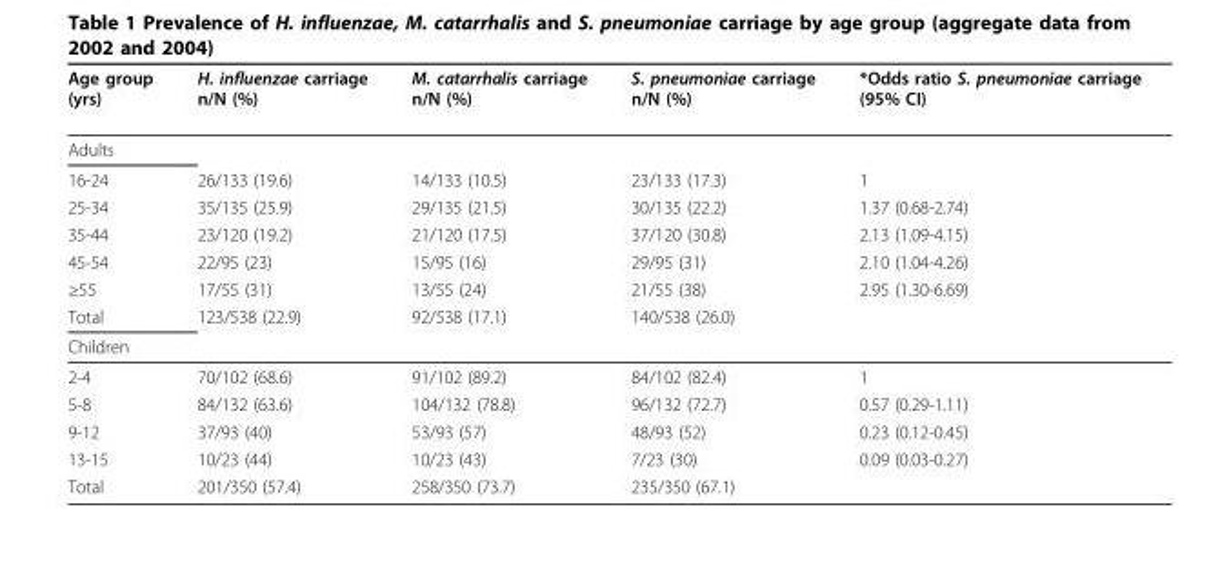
<table><thead><tr><td>Age group (yrs)</td><td>H. influenzae carriage n/N (%)</td><td>M. catarrhalis carriage n/N (%)</td><td>S. pneumoniae carriage n/N (%)</td><td>*Odds ratio S. pneumoniae carriage (95% CI)</td></tr></thead><tbody><tr><td colspan="5">Adults</td></tr><tr><td>16-24</td><td>26/133 (19.6)</td><td>14/133 (10.5)</td><td>23/133 (17.3)</td><td>1</td></tr><tr><td>25-34</td><td>35/135 (25.9)</td><td>29/135 (21.5)</td><td>30/135 (22.2)</td><td>1.37 (0.68-2.74)</td></tr><tr><td>35-44</td><td>23/120 (19.2)</td><td>21/120 (17.5)</td><td>37/120 (30.8)</td><td>2.13 (1.09-4.15)</td></tr><tr><td>45-54</td><td>22/95 (23)</td><td>15/95 (16)</td><td>29/95 (31)</td><td>2.10 (1.04-4.26)</td></tr><tr><td>≥55</td><td>17/55 (31)</td><td>13/55 (24)</td><td>21/55 (38)</td><td>2.95 (1.30-6.69)</td></tr><tr><td>Total</td><td>123/538 (22.9)</td><td>92/538 (17.1)</td><td>140/538 (26.0)</td><td></td></tr><tr><td colspan="5">Children</td></tr><tr><td>2-4</td><td>70/102 (68.6)</td><td>91/102 (89.2)</td><td>84/102 (82.4)</td><td>1</td></tr><tr><td>5-8</td><td>84/132 (63.6)</td><td>104/132 (78.8)</td><td>96/132 (72.7)</td><td>0.57 (0.29-1.11)</td></tr><tr><td>9-12</td><td>37/93 (40)</td><td>53/93 (57)</td><td>48/93 (52)</td><td>0.23 (0.12-0.45)</td></tr><tr><td>13-15</td><td>10/23 (44)</td><td>10/23 (43)</td><td>7/23 (30)</td><td>0.09 (0.03-0.27)</td></tr><tr><td>Total</td><td>201/350 (57.4)</td><td>258/350 (73.7)</td><td>235/350 (67.1)</td><td></td></tr></tbody></table>